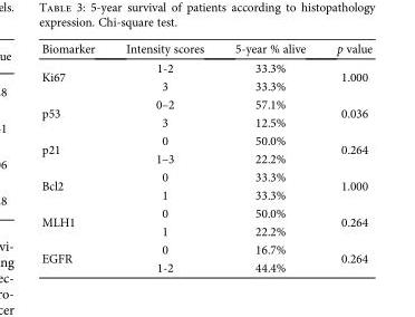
<table><thead><tr><td>Biomarker</td><td>Intensity scores</td><td>5-year % alive</td><td>p value</td></tr></thead><tbody><tr><td rowspan="2">Ki67</td><td>1-2</td><td>33.3%</td><td rowspan="2">1.000</td></tr><tr><td>3</td><td>33.3%</td></tr><tr><td rowspan="2">p53</td><td>0–2</td><td>57.1%</td><td rowspan="2">0.036</td></tr><tr><td>3</td><td>12.5%</td></tr><tr><td rowspan="2">p21</td><td>0</td><td>50.0%</td><td rowspan="2">0.264</td></tr><tr><td>1–3</td><td>22.2%</td></tr><tr><td rowspan="2">Bcl2</td><td>0</td><td>33.3%</td><td rowspan="2">1.000</td></tr><tr><td>1</td><td>33.3%</td></tr><tr><td rowspan="2">MLH1</td><td>0</td><td>50.0%</td><td rowspan="2">0.264</td></tr><tr><td>1</td><td>22.2%</td></tr><tr><td rowspan="2">EGFR</td><td>0</td><td>16.7%</td><td rowspan="2">0.264</td></tr><tr><td>1-2</td><td>44.4%</td></tr></tbody></table>